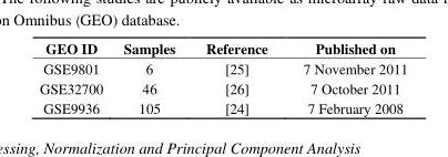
<table><thead><tr><td>GEO ID</td><td>Samples</td><td>Reference</td><td>Published on</td></tr></thead><tbody><tr><td>GSE9801</td><td>6</td><td>[25]</td><td>7 November 2011</td></tr><tr><td>GSE32700</td><td>46</td><td>[26]</td><td>7 October 2011</td></tr><tr><td>GSE9936</td><td>105</td><td>[24]</td><td>7 February 2008</td></tr></tbody></table>